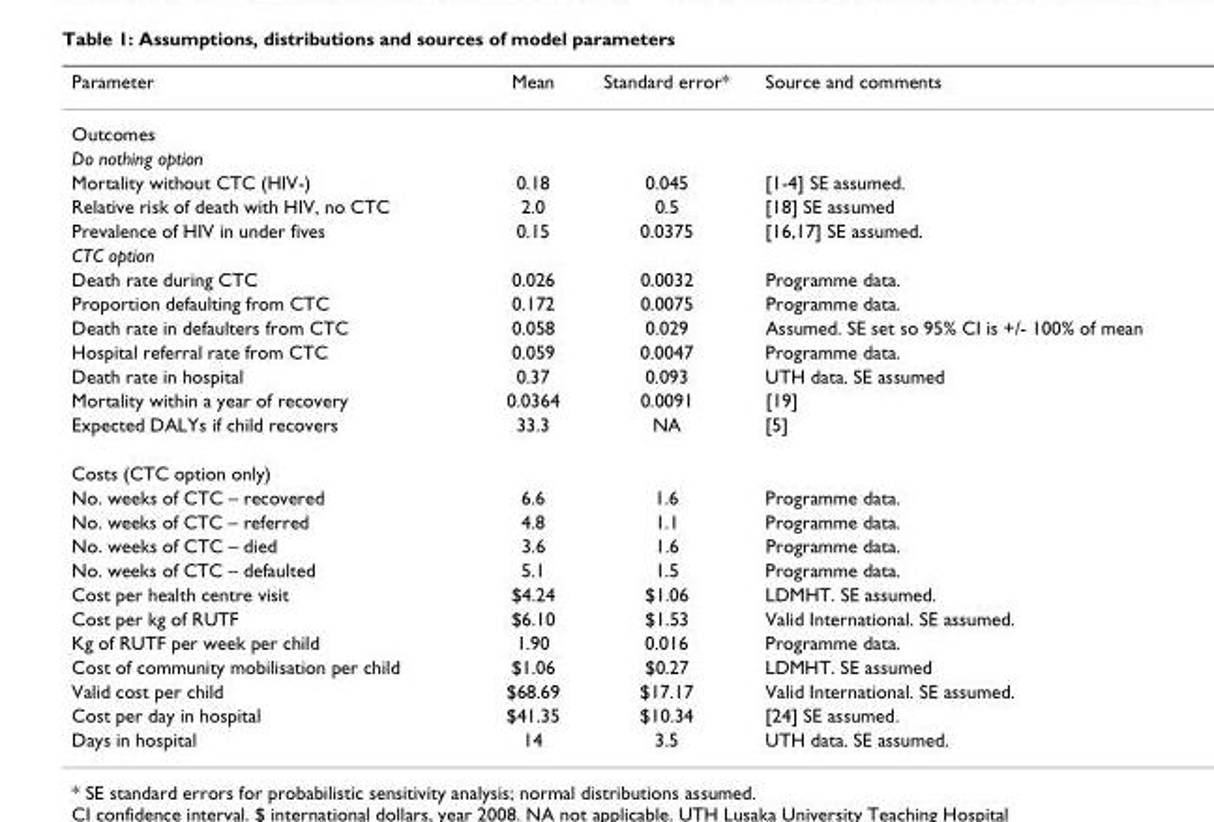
<table><thead><tr><td>Parameter</td><td>Mean</td><td>Standard error*</td><td>Source and comments</td></tr></thead><tbody><tr><td colspan="4">Outcomes</td></tr><tr><td colspan="4">Do nothing option</td></tr><tr><td>Mortality without CTC (HIV-)</td><td>0.18</td><td>0.045</td><td>[1-4] SE assumed.</td></tr><tr><td>Relative risk of death with HIV, no CTC</td><td>2.0</td><td>0.5</td><td>[18] SE assumed</td></tr><tr><td>Prevalence of HIV in under fives</td><td>0.15</td><td>0.0375</td><td>[16,17] SE assumed.</td></tr><tr><td colspan="4">CTC option</td></tr><tr><td>Death rate during CTC</td><td>0.026</td><td>0.0032</td><td>Programme data.</td></tr><tr><td>Proportion defaulting from CTC</td><td>0.172</td><td>0.0075</td><td>Programme data.</td></tr><tr><td>Death rate in defaulters from CTC</td><td>0.058</td><td>0.029</td><td>Assumed. SE set so 95% CI is +/- 100% of mean</td></tr><tr><td>Hospital referral rate from CTC</td><td>0.059</td><td>0.0047</td><td>Programme data.</td></tr><tr><td>Death rate in hospital</td><td>0.37</td><td>0.093</td><td>UTH data. SE assumed</td></tr><tr><td>Mortality within a year of recovery</td><td>0.0364</td><td>0.0091</td><td>[19]</td></tr><tr><td>Expected DALYs if child recovers</td><td>33.3</td><td>NA</td><td>[5]</td></tr><tr><td colspan="4">Costs (CTC option only)</td></tr><tr><td>No. weeks of CTC – recovered</td><td>6.6</td><td>1.6</td><td>Programme data.</td></tr><tr><td>No. weeks of CTC – referred</td><td>4.8</td><td>1.1</td><td>Programme data.</td></tr><tr><td>No. weeks of CTC – died</td><td>3.6</td><td>1.6</td><td>Programme data.</td></tr><tr><td>No. weeks of CTC – defaulted</td><td>5.1</td><td>1.5</td><td>Programme data.</td></tr><tr><td>Cost per health centre visit</td><td>$4.24</td><td>$1.06</td><td>LDMHT. SE assumed.</td></tr><tr><td>Cost per kg of RUTF</td><td>$6.10</td><td>$1.53</td><td>Valid International. SE assumed.</td></tr><tr><td>Kg of RUTF per week per child</td><td>1.90</td><td>0.016</td><td>Programme data.</td></tr><tr><td>Cost of community mobilisation per child</td><td>$1.06</td><td>$0.27</td><td>LDMHT. SE assumed</td></tr><tr><td>Valid cost per child</td><td>$68.69</td><td>$17.17</td><td>Valid International. SE assumed.</td></tr><tr><td>Cost per day in hospital</td><td>$41.35</td><td>$10.34</td><td>[24] SE assumed.</td></tr><tr><td>Days in hospital</td><td>14</td><td>3.5</td><td>UTH data. SE assumed.</td></tr></tbody></table>